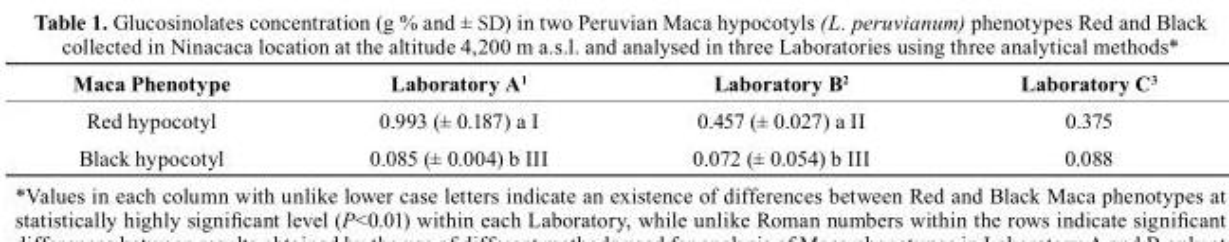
<table><thead><tr><td>Maca Phenotype</td><td>Laboratory A<sup>1</sup></td><td>Laboratory b<sup>2</sup></td><td>Laboratory c<sup>3</sup></td></tr></thead><tbody><tr><td>Red hypocotyl</td><td>0.993 (± 0.187) a I</td><td>0.457 (± 0.027) a II</td><td>0.375</td></tr><tr><td>Black hypocotyl</td><td>0.085 (± 0.004) b III</td><td>0.072 (± 0.054) b III</td><td>0.088</td></tr></tbody></table>